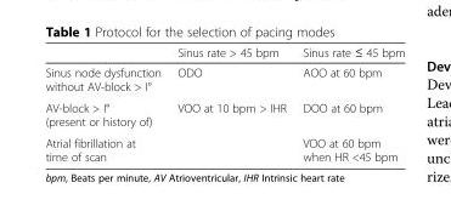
<table><thead><tr><td></td><td>Sinus rate &gt; 45 bpm</td><td>Sinus rate ≤ 45 bpm</td></tr></thead><tbody><tr><td>Sinus node dysfunction without AV-block &gt; I°</td><td>ODO</td><td>AOO at 60 bpm</td></tr><tr><td>AV-block &gt; I° (present or history of)</td><td>VOO at 10 bpm &gt; IHR</td><td>DOO at 60 bpm</td></tr><tr><td>Atrial fibrillation at time of scan</td><td></td><td>VOO at 60 bpm when HR &lt;45 bpm</td></tr></tbody></table>